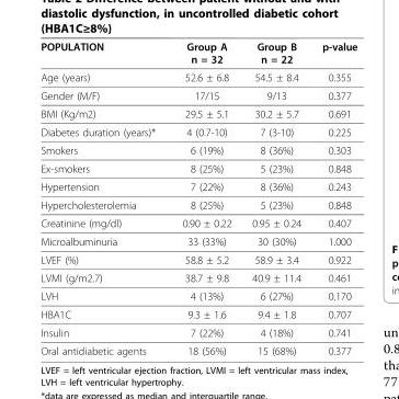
<table><thead><tr><td>POPULATION</td><td>Group A n = 32</td><td>Group B n = 22</td><td>p-value</td></tr></thead><tbody><tr><td>Age (years)</td><td>52.6 ± 6.8</td><td>54.5 ± 8.4</td><td>0.355</td></tr><tr><td>Gender (M/F)</td><td>17/15</td><td>9/13</td><td>0.377</td></tr><tr><td>BMI (Kg/m2)</td><td>29.5 ± 5.1</td><td>30.2 ± 5.7</td><td>0.691</td></tr><tr><td>Diabetes duration (years)*</td><td>4 (0.7-10)</td><td>7 (3-10)</td><td>0.225</td></tr><tr><td>Smokers</td><td>6 (19%)</td><td>8 (36%)</td><td>0.303</td></tr><tr><td>Ex-smokers</td><td>8 (25%)</td><td>5 (23%)</td><td>0.848</td></tr><tr><td>Hypertension</td><td>7 (22%)</td><td>8 (36%)</td><td>0.243</td></tr><tr><td>Hypercholesterolemia</td><td>8 (25%)</td><td>5 (23%)</td><td>0.848</td></tr><tr><td>Creatinine (mg/dl)</td><td>0.90 ± 0.22</td><td>0.95 ± 0.24</td><td>0.407</td></tr><tr><td>Microalbuminuria</td><td>33 (33%)</td><td>30 (30%)</td><td>1.000</td></tr><tr><td>LVEF (%)</td><td>58.8 ± 5.2</td><td>58.9 ± 3.4</td><td>0.922</td></tr><tr><td>LVMI (g/m2.7)</td><td>38.7 ± 9.8</td><td>40.9 ± 11.4</td><td>0.461</td></tr><tr><td>LVH</td><td>4 (13%)</td><td>6 (27%)</td><td>0.170</td></tr><tr><td>HBA1C</td><td>9.3 ± 1.6</td><td>9.4 ± 1.8</td><td>0.707</td></tr><tr><td>Insulin</td><td>7 (22%)</td><td>4 (18%)</td><td>0.741</td></tr><tr><td>Oral antidiabetic agents</td><td>18 (56%)</td><td>15 (68%)</td><td>0.377</td></tr></tbody></table>